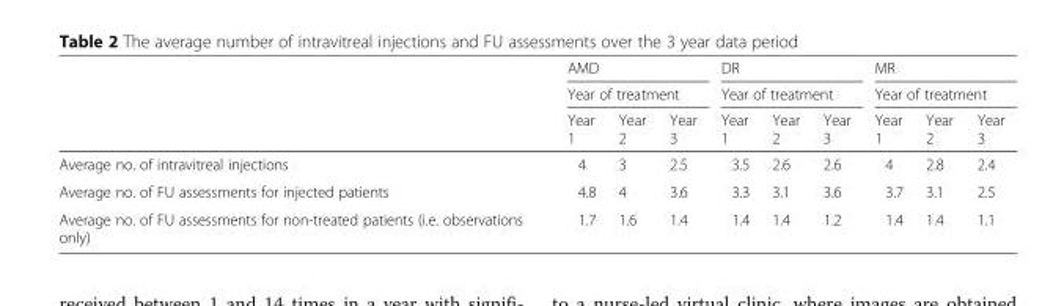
<table><thead><tr><td rowspan="3"></td><td rowspan="2" colspan="3">AMD Year of treatment</td><td rowspan="2" colspan="3">DR Year of treatment</td><td rowspan="2" colspan="3">MR Year of treatment</td></tr><tr></tr><tr><td>Year 1</td><td>Year 2</td><td>Year 3</td><td>Year 1</td><td>Year 2</td><td>Year 3</td><td>Year 1</td><td>Year 2</td><td>Year 3</td></tr></thead><tbody><tr><td>Average no. of intravitreal injections</td><td>4</td><td>3</td><td>2.5</td><td>3.5</td><td>2.6</td><td>2.6</td><td>4</td><td>2.8</td><td>2.4</td></tr><tr><td>Average no. of FU assessments for injected patients</td><td>4.8</td><td>4</td><td>3.6</td><td>3.3</td><td>3.1</td><td>3.6</td><td>3.7</td><td>3.1</td><td>2.5</td></tr><tr><td>Average no. of FU assessments for non-treated patients (i.e. observations only)</td><td>1.7</td><td>1.6</td><td>1.4</td><td>1.4</td><td>1.4</td><td>1.2</td><td>1.4</td><td>1.4</td><td>1.1</td></tr></tbody></table>